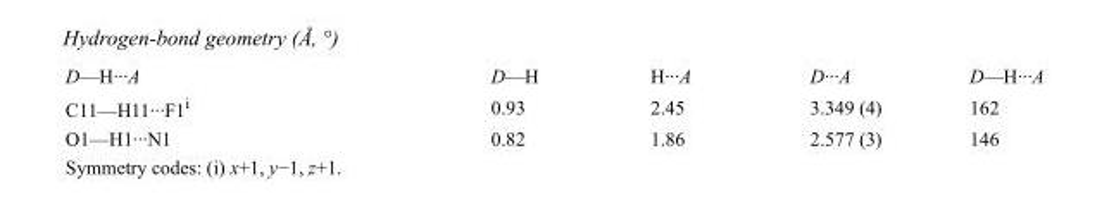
<table><tbody><tr><td>D—H···A</td><td>D—H</td><td>H···A</td><td>D···A</td><td>D—H···A</td></tr><tr><td>C11—H11···F1<sup>i</sup></td><td>0.93</td><td>2.45</td><td>3.349 (4)</td><td>162</td></tr><tr><td>O1—H1···N1</td><td>0.82</td><td>1.86</td><td>2.577 (3)</td><td>146</td></tr></tbody></table>